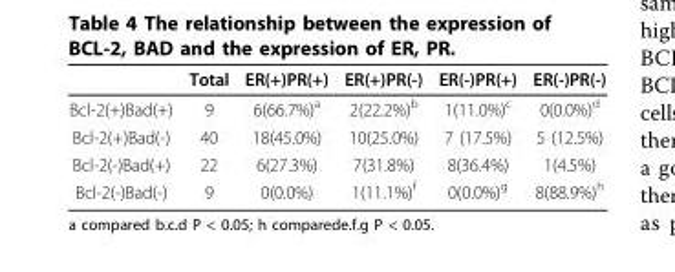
<table><thead><tr><td></td><td>Total</td><td>ER(+)PR(+)</td><td>ER(+)PR(-)</td><td>ER(-)PR(+)</td><td>ER(-)PR(-)</td></tr></thead><tbody><tr><td>Bcl-2(+)Bad(+)</td><td>9</td><td>6(66.7%)<sup>a</sup></td><td>2(22.2%)<sup>b</sup></td><td>1(11.0%)<sup>c</sup></td><td>0(0.0%)<sup>d</sup></td></tr><tr><td>Bcl-2(+)Bad(-)</td><td>40</td><td>18(45.0%)</td><td>10(25.0%)</td><td>7 (17.5%)</td><td>5 (12.5%)</td></tr><tr><td>Bcl-2(-)Bad(+)</td><td>22</td><td>6(27.3%)</td><td>7(31.8%)</td><td>8(36.4%)</td><td>1(4.5%)</td></tr><tr><td>Bcl-2(-)Bad(-)</td><td>9</td><td>0(0.0%)</td><td>1(11.1%)<sup>f</sup></td><td>0(0.0%)<sup>g</sup></td><td>8(88.9%)<sup>h</sup></td></tr></tbody></table>